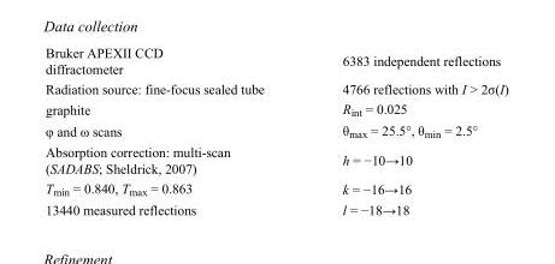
<table><tbody><tr><td>Bruker APEXII CCD diffractometer</td><td>6383 independent reflections</td></tr><tr><td>Radiation source: fine-focus sealed tube</td><td>4766 reflections with I &gt; 2σ(I)</td></tr><tr><td>graphite</td><td>R<sub>int</sub> = 0.025</td></tr><tr><td>φ and ω scans</td><td>θ<sub>max</sub> = 25.5°, θ<sub>min</sub> = 2.5°</td></tr><tr><td>Absorption correction: multi-scan (SADABS; Sheldrick, 2007)</td><td>h = −10→10</td></tr><tr><td>T<sub>min</sub> = 0.840, T<sub>max</sub> = 0.863</td><td>k = −16→16</td></tr><tr><td>13440 measured reflections</td><td>l = −18→18</td></tr></tbody></table>